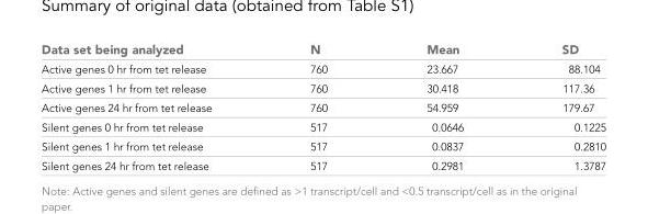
<table><thead><tr><td>Data set being analyzed</td><td>N</td><td>Mean</td><td>SD</td></tr></thead><tbody><tr><td>Active genes 0 hr from tet release</td><td>760</td><td>23.667</td><td>88.104</td></tr><tr><td>Active genes 1 hr from tet release</td><td>760</td><td>30.418</td><td>117.36</td></tr><tr><td>Active genes 24 hr from tet release</td><td>760</td><td>54.959</td><td>179.67</td></tr><tr><td>Silent genes 0 hr from tet release</td><td>517</td><td>0.0646</td><td>0.1225</td></tr><tr><td>Silent genes 1 hr from tet release</td><td>517</td><td>0.0837</td><td>0.2810</td></tr><tr><td>Silent genes 24 hr from tet release</td><td>517</td><td>0.2981</td><td>1.3787</td></tr></tbody></table>